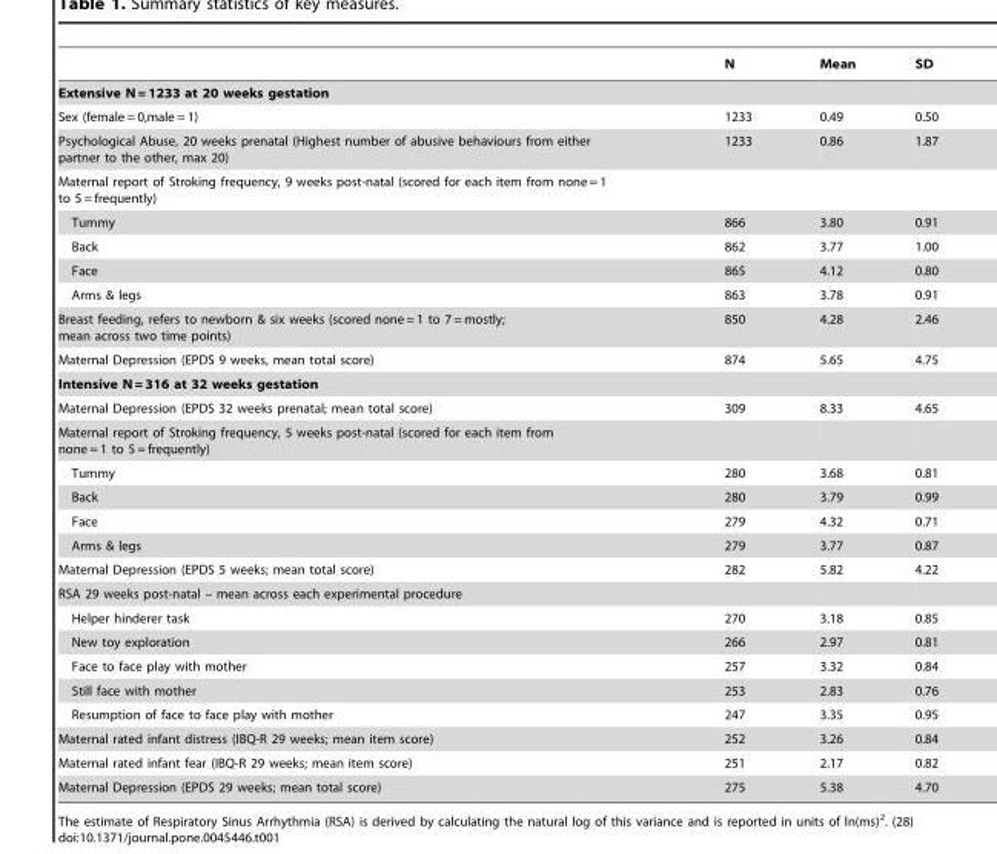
<table><thead><tr><td></td><td>N</td><td>Mean</td><td>SD</td></tr></thead><tbody><tr><td colspan="4">Extensive N = 1233 at 20 weeks gestation</td></tr><tr><td>Sex (female = 0,male = 1)</td><td>1233</td><td>0.49</td><td>0.50</td></tr><tr><td>Psychological Abuse, 20 weeks prenatal (Highest number of abusive behaviours from either partner to the other, max 20)</td><td>1233</td><td>0.86</td><td>1.87</td></tr><tr><td colspan="4">Maternal report of Stroking frequency, 9 weeks post-natal (scored for each item from none = 1 to 5 = frequently)</td></tr><tr><td>Tummy</td><td>866</td><td>3.80</td><td>0.91</td></tr><tr><td>Back</td><td>862</td><td>3.77</td><td>1.00</td></tr><tr><td>Face</td><td>865</td><td>4.12</td><td>0.80</td></tr><tr><td>Arms &amp; legs</td><td>863</td><td>3.78</td><td>0.91</td></tr><tr><td>Breast feeding, refers to newborn &amp; six weeks (scored none = 1 to 7 = mostly; mean across two time points)</td><td>850</td><td>4.28</td><td>2.46</td></tr><tr><td>Maternal Depression (EPDS 9 weeks, mean total score)</td><td>874</td><td>5.65</td><td>4.75</td></tr><tr><td colspan="4">Intensive N = 316 at 32 weeks gestation</td></tr><tr><td>Maternal Depression (EPDS 32 weeks prenatal; mean total score)</td><td>309</td><td>8.33</td><td>4.65</td></tr><tr><td colspan="4">Maternal report of Stroking frequency, 5 weeks post-natal (scored for each item from none = 1 to 5 = frequently)</td></tr><tr><td>Tummy</td><td>280</td><td>3.68</td><td>0.81</td></tr><tr><td>Back</td><td>280</td><td>3.79</td><td>0.99</td></tr><tr><td>Face</td><td>279</td><td>4.32</td><td>0.71</td></tr><tr><td>Arms &amp; legs</td><td>279</td><td>3.77</td><td>0.87</td></tr><tr><td>Maternal Depression (EPDS 5 weeks; mean total score)</td><td>282</td><td>5.82</td><td>4.22</td></tr><tr><td colspan="4">RSA 29 weeks post-natal – mean across each experimental procedure</td></tr><tr><td>Helper hinderer task</td><td>270</td><td>3.18</td><td>0.85</td></tr><tr><td>New toy exploration</td><td>266</td><td>2.97</td><td>0.81</td></tr><tr><td>Face to face play with mother</td><td>257</td><td>3.32</td><td>0.84</td></tr><tr><td>Still face with mother</td><td>253</td><td>2.83</td><td>0.76</td></tr><tr><td>Resumption of face to face play with mother</td><td>247</td><td>3.35</td><td>0.95</td></tr><tr><td>Maternal rated infant distress (IBQ-R 29 weeks; mean item score)</td><td>252</td><td>3.26</td><td>0.84</td></tr><tr><td>Maternal rated infant fear (IBQ-R 29 weeks; mean item score)</td><td>251</td><td>2.17</td><td>0.82</td></tr><tr><td>Maternal Depression (EPDS 29 weeks; mean total score)</td><td>275</td><td>5.38</td><td>4.70</td></tr></tbody></table>